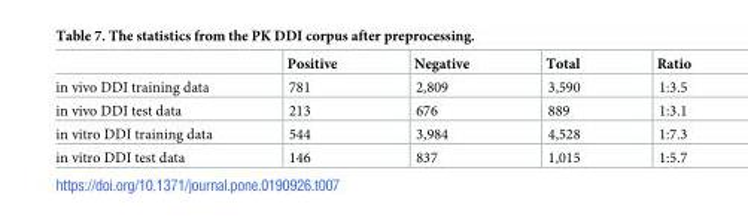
<table><thead><tr><td></td><td>Positive</td><td>Negative</td><td>Total</td><td>Ratio</td></tr></thead><tbody><tr><td>in vivo DDI training data</td><td>781</td><td>2,809</td><td>3,590</td><td>1:3.5</td></tr><tr><td>in vivo DDI test data</td><td>213</td><td>676</td><td>889</td><td>1:3.1</td></tr><tr><td>in vitro DDI training data</td><td>544</td><td>3,984</td><td>4,528</td><td>1:7.3</td></tr><tr><td>in vitro DDI test data</td><td>146</td><td>837</td><td>1,015</td><td>1:5.7</td></tr></tbody></table>